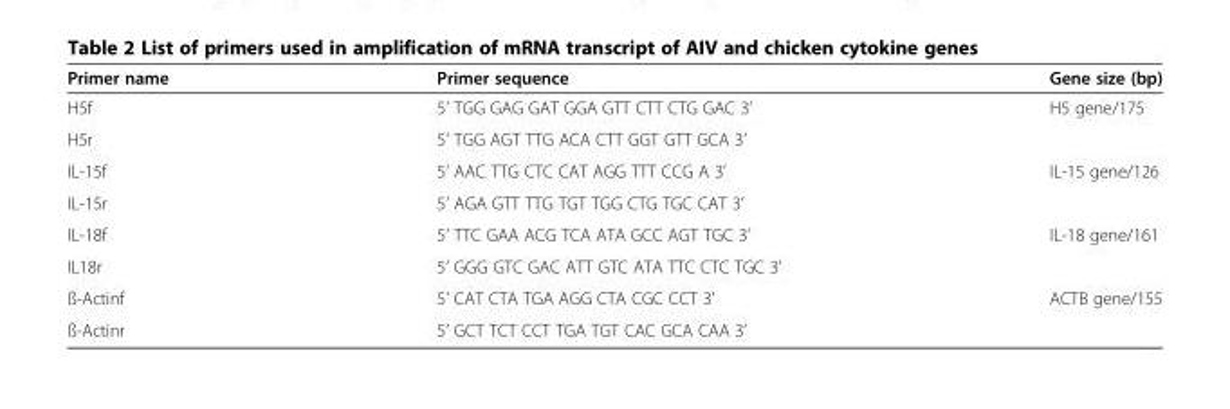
<table><thead><tr><td>Primer name</td><td>Primer sequence</td><td>Gene size (bp)</td></tr></thead><tbody><tr><td>H5f</td><td>5’ TGG GAG GAT GGA GTT CTT CTG GAC 3’</td><td>H5 gene/175</td></tr><tr><td>H5r</td><td>5’ TGG AGT TTG ACA CTT GGT GTT GCA 3’</td><td></td></tr><tr><td>IL-15f</td><td>5’ AAC TTG CTC CAT AGG TTT CCG A 3’</td><td>IL-15 gene/126</td></tr><tr><td>IL-15r</td><td>5’ AGA GTT TTG TGT TGG CTG TGC CAT 3’</td><td></td></tr><tr><td>IL-18f</td><td>5’ TTC GAA ACG TCA ATA GCC AGT TGC 3’</td><td>IL-18 gene/161</td></tr><tr><td>IL18r</td><td>5’ GGG GTC GAC ATT GTC ATA TTC CTC TGC 3’</td><td></td></tr><tr><td>ß-Actinf</td><td>5’ CAT CTA TGA AGG CTA CGC CCT 3’</td><td>ACTB gene/155</td></tr><tr><td>ß-Actinr</td><td>5’ GCT TCT CCT TGA TGT CAC GCA CAA 3’</td><td></td></tr></tbody></table>